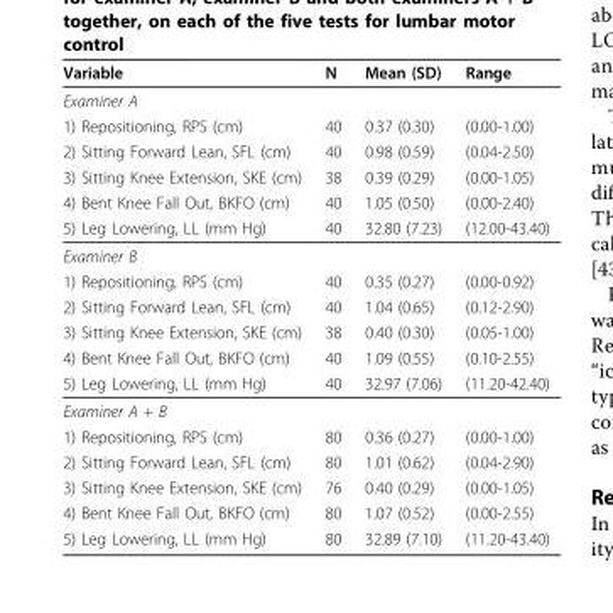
<table><thead><tr><td>Variable</td><td>N</td><td>Mean (SD)</td><td>Range</td></tr></thead><tbody><tr><td colspan="4">Examiner A</td></tr><tr><td>1) Repositioning, RPS (cm)</td><td>40</td><td>0.37 (0.30)</td><td>(0.00-1.00)</td></tr><tr><td>2) Sitting Forward Lean, SFL (cm)</td><td>40</td><td>0.98 (0.59)</td><td>(0.04-2.50)</td></tr><tr><td>3) Sitting Knee Extension, SKE (cm)</td><td>38</td><td>0.39 (0.29)</td><td>(0.00-1.05)</td></tr><tr><td>4) Bent Knee Fall Out, BKFO (cm)</td><td>40</td><td>1.05 (0.50)</td><td>(0.00-2.40)</td></tr><tr><td>5) Leg Lowering, LL (mm Hg)</td><td>40</td><td>32.80 (7.23)</td><td>(12.00-43.40)</td></tr><tr><td colspan="4">Examiner B</td></tr><tr><td>1) Repositioning, RPS (cm)</td><td>40</td><td>0.35 (0.27)</td><td>(0.00-0.92)</td></tr><tr><td>2) Sitting Forward Lean, SFL (cm)</td><td>40</td><td>1.04 (0.65)</td><td>(0.12-2.90)</td></tr><tr><td>3) Sitting Knee Extension, SKE (cm)</td><td>38</td><td>0.40 (0.30)</td><td>(0.05-1.00)</td></tr><tr><td>4) Bent Knee Fall Out, BKFO (cm)</td><td>40</td><td>1.09 (0.55)</td><td>(0.10-2.55)</td></tr><tr><td>5) Leg Lowering, LL (mm Hg)</td><td>40</td><td>32.97 (7.06)</td><td>(11.20-42.40)</td></tr><tr><td colspan="4">Examiner A + B</td></tr><tr><td>1) Repositioning, RPS (cm)</td><td>80</td><td>0.36 (0.27)</td><td>(0.00-1.00)</td></tr><tr><td>2) Sitting Forward Lean, SFL (cm)</td><td>80</td><td>1.01 (0.62)</td><td>(0.04-2.90)</td></tr><tr><td>3) Sitting Knee Extension, SKE (cm)</td><td>76</td><td>0.40 (0.29)</td><td>(0.00-1.05)</td></tr><tr><td>4) Bent Knee Fall Out, BKFO (cm)</td><td>80</td><td>1.07 (0.52)</td><td>(0.00-2.55)</td></tr><tr><td>5) Leg Lowering, LL (mm Hg)</td><td>80</td><td>32.89 (7.10)</td><td>(11.20-43.40)</td></tr></tbody></table>